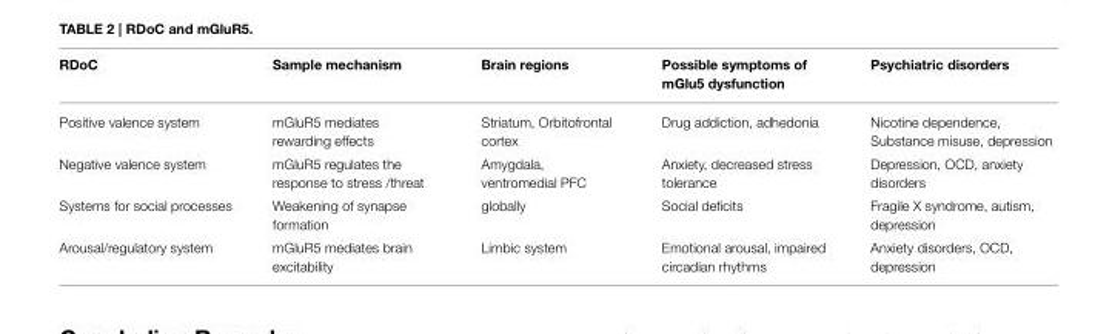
<table><thead><tr><td>RDoC</td><td>Sample mechanism</td><td>Brain regions</td><td>Possible symptoms of mGlu5 dysfunction</td><td>Psychiatric disorders</td></tr></thead><tbody><tr><td>Positive valence system</td><td>mGluR5 mediates rewarding effects</td><td>Striatum, Orbitofrontal cortex</td><td>Drug addiction, adhedonia</td><td>Nicotine dependence, Substance misuse, depression</td></tr><tr><td>Negative valence system</td><td>mGluR5 regulates the response to stress /threat</td><td>Amygdala, ventromedial PFC</td><td>Anxiety, decreased stress tolerance</td><td>Depression, OCD, anxiety disorders</td></tr><tr><td>Systems for social processes</td><td>Weakening of synapse formation</td><td>globally</td><td>Social deficits</td><td>Fragile X syndrome, autism, depression</td></tr><tr><td>Arousal/regulatory system</td><td>mGluR5 mediates brain excitability</td><td>Limbic system</td><td>Emotional arousal, impaired circadian rhythms</td><td>Anxiety disorders, OCD, depression</td></tr></tbody></table>